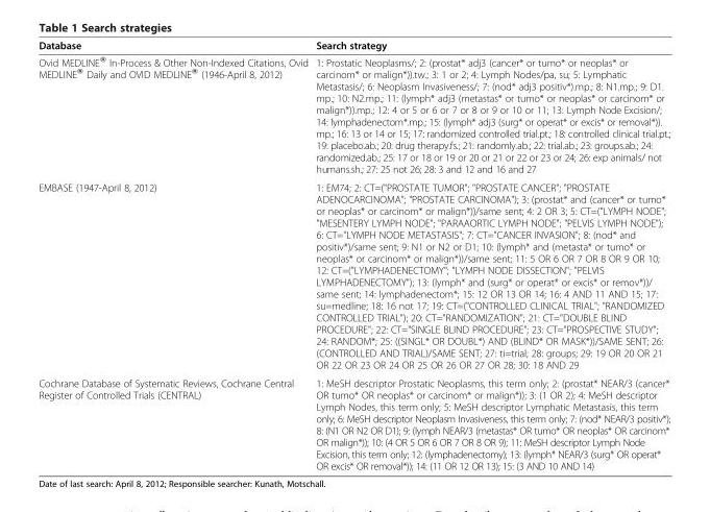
<table><thead><tr><td>Database</td><td>Search strategy</td></tr></thead><tbody><tr><td>Ovid MEDLINE® In-Process &amp; Other Non-Indexed Citations, Ovid MEDLINE® Daily and OVID MEDLINE® (1946-April 8, 2012)</td><td>1: Prostatic Neoplasms/; 2: (prostat* adj3 (cancer* or tumo* or neoplas* or carcinom* or malign*)).tw.; 3: 1 or 2; 4: Lymph Nodes/pa, su; 5: Lymphatic Metastasis/; 6: Neoplasm Invasiveness/; 7: (nod* adj3 positiv*).mp.; 8: N1.mp.; 9: D1. mp.; 10: N2.mp.; 11: (lymph* adj3 (metastas* or tumo* or neoplas* or carcinom* or malign*)).mp.; 12: 4 or 5 or 6 or 7 or 8 or 9 or 10 or 11; 13: Lymph Node Excision/; 14: lymphadenectom*.mp.; 15: (lymph* adj3 (surg* or operat* or excis* or removal*)). mp.; 16: 13 or 14 or 15; 17: randomized controlled trial.pt.; 18: controlled clinical trial.pt.; 19: placebo.ab.; 20: drug therapy.fs.; 21: randomly.ab.; 22: trial.ab.; 23: groups.ab.; 24: randomized.ab.; 25: 17 or 18 or 19 or 20 or 21 or 22 or 23 or 24; 26: exp animals/ not humans.sh.; 27: 25 not 26; 28: 3 and 12 and 16 and 27</td></tr><tr><td>EMBASE (1947-April 8, 2012)</td><td>1: EM74; 2: CT=(&quot;PROSTATE TUMOR&quot;; &quot;PROSTATE CANCER&quot;; &quot;PROSTATE ADENOCARCINOMA&quot;; &quot;PROSTATE CARCINOMA&quot;); 3: (prostat* and (cancer* or tumo* or neoplas* or carcinom* or malign*))/same sent; 4: 2 OR 3; 5: CT=(&quot;LYMPH NODE&quot;; &quot;MESENTERY LYMPH NODE&quot;; &quot;PARAAORTIC LYMPH NODE&quot;; &quot;PELVIS LYMPH NODE&quot;); 6: CT=&quot;LYMPH NODE METASTASIS&quot;; 7: CT=&quot;CANCER INVASION&quot;; 8: (nod* and positiv*)/same sent; 9: N1 or N2 or D1; 10: (lymph* and (metasta* or tumo* or neoplas* or carcinom* or malign*))/same sent; 11: 5 OR 6 OR 7 OR 8 OR 9 OR 10; 12: CT=(&quot;LYMPHADENECTOMY&quot;; &quot;LYMPH NODE DISSECTION&quot;; &quot;PELVIS LYMPHADENECTOMY&quot;); 13: (lymph* and (surg* or operat* or excis* or remov*))/ same sent; 14: lymphadenectom*; 15: 12 OR 13 OR 14; 16: 4 AND 11 AND 15; 17: su=medline; 18: 16 not 17; 19: CT=(&quot;CONTROLLED CLINICAL TRIAL&quot;; &quot;RANDOMIZED CONTROLLED TRIAL&quot;); 20: CT=&quot;RANDOMIZATION&quot;; 21: CT=&quot;DOUBLE BLIND PROCEDURE&quot;; 22: CT=&quot;SINGLE BLIND PROCEDURE&quot;; 23: CT=&quot;PROSPECTIVE STUDY&quot;; 24: RANDOM*; 25: ((SINGL* OR DOUBL*) AND (BLIND* OR MASK*))/SAME SENT; 26: (CONTROLLED AND TRIAL)/SAME SENT; 27: ti=trial; 28: groups; 29: 19 OR 20 OR 21 OR 22 OR 23 OR 24 OR 25 OR 26 OR 27 OR 28; 30: 18 AND 29</td></tr><tr><td>Cochrane Database of Systematic Reviews, Cochrane Central Register of Controlled Trials (CENTRAL)</td><td>1: MeSH descriptor Prostatic Neoplasms, this term only; 2: (prostat* NEAR/3 (cancer* OR tumo* OR neoplas* or carcinom* or malign*)); 3: (1 OR 2); 4: MeSH descriptor Lymph Nodes, this term only; 5: MeSH descriptor Lymphatic Metastasis, this term only; 6: MeSH descriptor Neoplasm Invasiveness, this term only; 7: (nod* NEAR/3 positiv*); 8: (N1 OR N2 OR D1); 9: (lymph NEAR/3 (metastas* OR tumo* OR neoplas* OR carcinom* OR malign*)); 10: (4 OR 5 OR 6 OR 7 OR 8 OR 9); 11: MeSH descriptor Lymph Node Excision, this term only; 12: (lymphadenectomy); 13: (lymph* NEAR/3 (surg* OR operat* OR excis* OR removal*)); 14: (11 OR 12 OR 13); 15: (3 AND 10 AND 14)</td></tr></tbody></table>